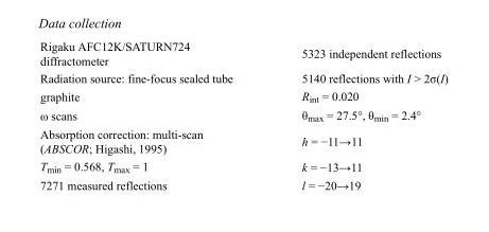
<table><tbody><tr><td>Rigaku AFC12K/SATURN724 diffractometer</td><td>5323 independent reflections</td></tr><tr><td>Radiation source: fine-focus sealed tube</td><td>5140 reflections with I &gt; 2σ(I)</td></tr><tr><td>graphite</td><td>R<sub>int</sub> = 0.020</td></tr><tr><td>ω scans</td><td>θ<sub>max</sub> = 27.5°, θ<sub>min</sub> = 2.4°</td></tr><tr><td>Absorption correction: multi-scan (ABSCOR; Higashi, 1995)</td><td>h = −11→11</td></tr><tr><td>T<sub>min</sub> = 0.568, T<sub>max</sub> = 1</td><td>k = −13→11</td></tr><tr><td>7271 measured reflections</td><td>l = −20→19</td></tr></tbody></table>